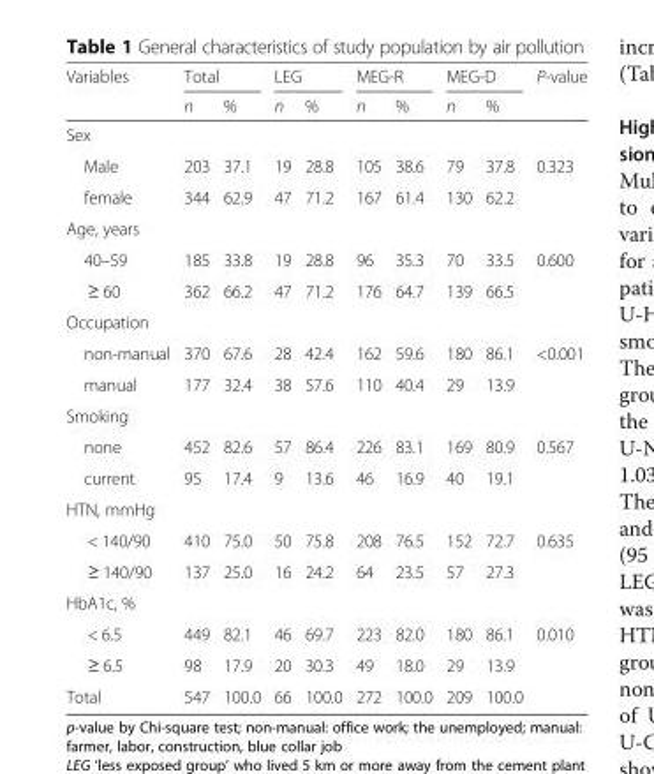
<table><thead><tr><td rowspan="2">Variables</td><td colspan="2">Total</td><td colspan="2">LEG</td><td colspan="2">MEG-R</td><td colspan="2">MEG-D</td><td rowspan="2">P-value</td></tr><tr><td>n</td><td>%</td><td>n</td><td>%</td><td>n</td><td>%</td><td>n</td><td>%</td></tr></thead><tbody><tr><td colspan="10">Sex</td></tr><tr><td>Male</td><td>203</td><td>37.1</td><td>19</td><td>28.8</td><td>105</td><td>38.6</td><td>79</td><td>37.8</td><td rowspan="2">0.323</td></tr><tr><td>female</td><td>344</td><td>62.9</td><td>47</td><td>71.2</td><td>167</td><td>61.4</td><td>130</td><td>62.2</td></tr><tr><td colspan="10">Age, years</td></tr><tr><td>40–59</td><td>185</td><td>33.8</td><td>19</td><td>28.8</td><td>96</td><td>35.3</td><td>70</td><td>33.5</td><td rowspan="2">0.600</td></tr><tr><td>≥ 60</td><td>362</td><td>66.2</td><td>47</td><td>71.2</td><td>176</td><td>64.7</td><td>139</td><td>66.5</td></tr><tr><td colspan="10">Occupation</td></tr><tr><td>non-manual</td><td>370</td><td>67.6</td><td>28</td><td>42.4</td><td>162</td><td>59.6</td><td>180</td><td>86.1</td><td rowspan="2">&lt;0.001</td></tr><tr><td>manual</td><td>177</td><td>32.4</td><td>38</td><td>57.6</td><td>110</td><td>40.4</td><td>29</td><td>13.9</td></tr><tr><td colspan="10">Smoking</td></tr><tr><td>none</td><td>452</td><td>82.6</td><td>57</td><td>86.4</td><td>226</td><td>83.1</td><td>169</td><td>80.9</td><td rowspan="2">0.567</td></tr><tr><td>current</td><td>95</td><td>17.4</td><td>9</td><td>13.6</td><td>46</td><td>16.9</td><td>40</td><td>19.1</td></tr><tr><td colspan="10">HTN, mmHg</td></tr><tr><td>&lt; 140/90</td><td>410</td><td>75.0</td><td>50</td><td>75.8</td><td>208</td><td>76.5</td><td>152</td><td>72.7</td><td rowspan="2">0.635</td></tr><tr><td>≥ 140/90</td><td>137</td><td>25.0</td><td>16</td><td>24.2</td><td>64</td><td>23.5</td><td>57</td><td>27.3</td></tr><tr><td colspan="10">HbA1c, %</td></tr><tr><td>&lt; 6.5</td><td>449</td><td>82.1</td><td>46</td><td>69.7</td><td>223</td><td>82.0</td><td>180</td><td>86.1</td><td rowspan="2">0.010</td></tr><tr><td>≥ 6.5</td><td>98</td><td>17.9</td><td>20</td><td>30.3</td><td>49</td><td>18.0</td><td>29</td><td>13.9</td></tr><tr><td>Total</td><td>547</td><td>100.0</td><td>66</td><td>100.0</td><td>272</td><td>100.0</td><td>209</td><td>100.0</td><td></td></tr></tbody></table>